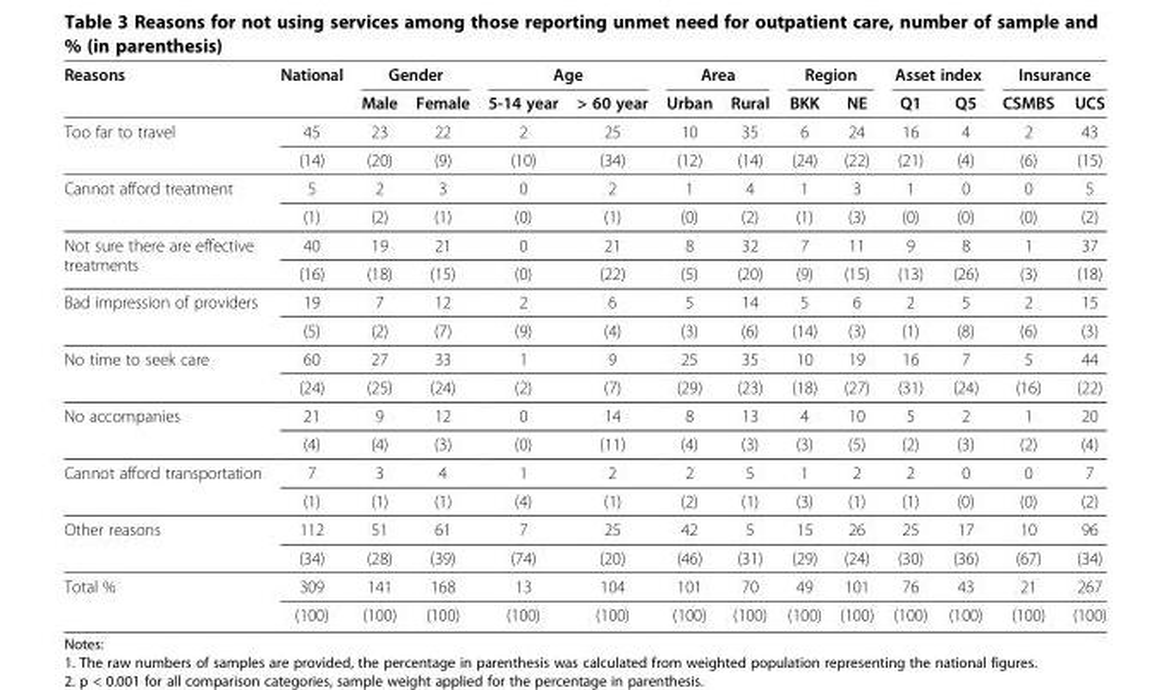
<table><thead><tr><td rowspan="2">Reasons</td><td rowspan="2">National</td><td colspan="2">Gender</td><td colspan="2">Age</td><td colspan="2">Area</td><td colspan="2">Region</td><td colspan="2">Asset index</td><td colspan="2">Insurance</td></tr><tr><td>Male</td><td>Female</td><td>5-14 year</td><td>&gt; 60 year</td><td>Urban</td><td>Rural</td><td>BKK</td><td>NE</td><td>Q1</td><td>Q5</td><td>CSMBS</td><td>UCS</td></tr></thead><tbody><tr><td rowspan="2">Too far to travel</td><td>45</td><td>23</td><td>22</td><td>2</td><td>25</td><td>10</td><td>35</td><td>6</td><td>24</td><td>16</td><td>4</td><td>2</td><td>43</td></tr><tr><td>(14)</td><td>(20)</td><td>(9)</td><td>(10)</td><td>(34)</td><td>(12)</td><td>(14)</td><td>(24)</td><td>(22)</td><td>(21)</td><td>(4)</td><td>(6)</td><td>(15)</td></tr><tr><td rowspan="2">Cannot afford treatment</td><td>5</td><td>2</td><td>3</td><td>0</td><td>2</td><td>1</td><td>4</td><td>1</td><td>3</td><td>1</td><td>0</td><td>0</td><td>5</td></tr><tr><td>(1)</td><td>(2)</td><td>(1)</td><td>(0)</td><td>(1)</td><td>(0)</td><td>(2)</td><td>(1)</td><td>(3)</td><td>(0)</td><td>(0)</td><td>(0)</td><td>(2)</td></tr><tr><td rowspan="2">Not sure there are effective treatments</td><td>40</td><td>19</td><td>21</td><td>0</td><td>21</td><td>8</td><td>32</td><td>7</td><td>11</td><td>9</td><td>8</td><td>1</td><td>37</td></tr><tr><td>(16)</td><td>(18)</td><td>(15)</td><td>(0)</td><td>(22)</td><td>(5)</td><td>(20)</td><td>(9)</td><td>(15)</td><td>(13)</td><td>(26)</td><td>(3)</td><td>(18)</td></tr><tr><td rowspan="2">Bad impression of providers</td><td>19</td><td>7</td><td>12</td><td>2</td><td>6</td><td>5</td><td>14</td><td>5</td><td>6</td><td>2</td><td>5</td><td>2</td><td>15</td></tr><tr><td>(5)</td><td>(2)</td><td>(7)</td><td>(9)</td><td>(4)</td><td>(3)</td><td>(6)</td><td>(14)</td><td>(3)</td><td>(1)</td><td>(8)</td><td>(6)</td><td>(3)</td></tr><tr><td rowspan="2">No time to seek care</td><td>60</td><td>27</td><td>33</td><td>1</td><td>9</td><td>25</td><td>35</td><td>10</td><td>19</td><td>16</td><td>7</td><td>5</td><td>44</td></tr><tr><td>(24)</td><td>(25)</td><td>(24)</td><td>(2)</td><td>(7)</td><td>(29)</td><td>(23)</td><td>(18)</td><td>(27)</td><td>(31)</td><td>(24)</td><td>(16)</td><td>(22)</td></tr><tr><td rowspan="2">No accompanies</td><td>21</td><td>9</td><td>12</td><td>0</td><td>14</td><td>8</td><td>13</td><td>4</td><td>10</td><td>5</td><td>2</td><td>1</td><td>20</td></tr><tr><td>(4)</td><td>(4)</td><td>(3)</td><td>(0)</td><td>(11)</td><td>(4)</td><td>(3)</td><td>(3)</td><td>(5)</td><td>(2)</td><td>(3)</td><td>(2)</td><td>(4)</td></tr><tr><td rowspan="2">Cannot afford transportation</td><td>7</td><td>3</td><td>4</td><td>1</td><td>2</td><td>2</td><td>5</td><td>1</td><td>2</td><td>2</td><td>0</td><td>0</td><td>7</td></tr><tr><td>(1)</td><td>(1)</td><td>(1)</td><td>(4)</td><td>(1)</td><td>(2)</td><td>(1)</td><td>(3)</td><td>(1)</td><td>(1)</td><td>(0)</td><td>(0)</td><td>(2)</td></tr><tr><td rowspan="2">Other reasons</td><td>112</td><td>51</td><td>61</td><td>7</td><td>25</td><td>42</td><td>5</td><td>15</td><td>26</td><td>25</td><td>17</td><td>10</td><td>96</td></tr><tr><td>(34)</td><td>(28)</td><td>(39)</td><td>(74)</td><td>(20)</td><td>(46)</td><td>(31)</td><td>(29)</td><td>(24)</td><td>(30)</td><td>(36)</td><td>(67)</td><td>(34)</td></tr><tr><td rowspan="2">Total %</td><td>309</td><td>141</td><td>168</td><td>13</td><td>104</td><td>101</td><td>70</td><td>49</td><td>101</td><td>76</td><td>43</td><td>21</td><td>267</td></tr><tr><td>(100)</td><td>(100)</td><td>(100)</td><td>(100)</td><td>(100)</td><td>(100)</td><td>(100)</td><td>(100)</td><td>(100)</td><td>(100)</td><td>(100)</td><td>(100)</td><td>(100)</td></tr></tbody></table>